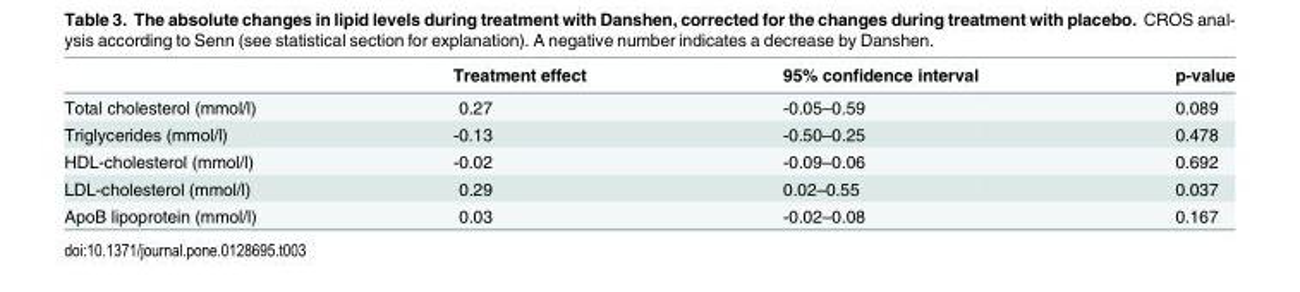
<table><thead><tr><td></td><td>Treatment effect</td><td>95% confidence interval</td><td>p-value</td></tr></thead><tbody><tr><td>Total cholesterol (mmol/l)</td><td>0.27</td><td>-0.05–0.59</td><td>0.089</td></tr><tr><td>Triglycerides (mmol/l)</td><td>-0.13</td><td>-0.50–0.25</td><td>0.478</td></tr><tr><td>HDL-cholesterol (mmol/l)</td><td>-0.02</td><td>-0.09–0.06</td><td>0.692</td></tr><tr><td>LDL-cholesterol (mmol/l)</td><td>0.29</td><td>0.02–0.55</td><td>0.037</td></tr><tr><td>ApoB lipoprotein (mmol/l)</td><td>0.03</td><td>-0.02–0.08</td><td>0.167</td></tr></tbody></table>